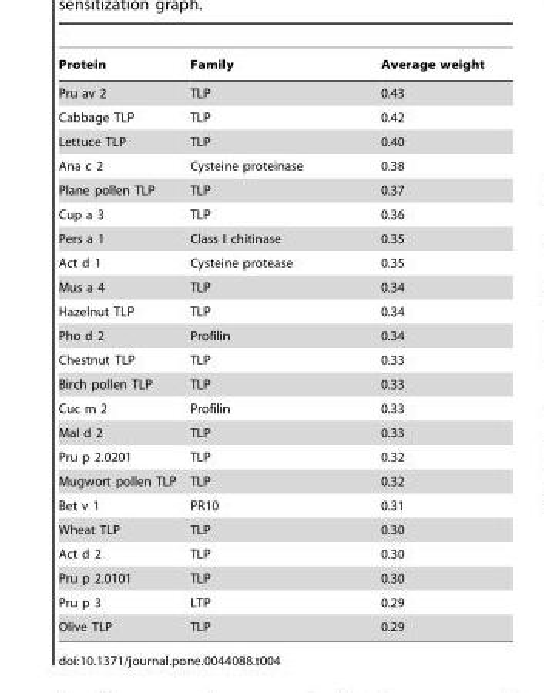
<table><thead><tr><td>Protein</td><td>Family</td><td>Average weight</td></tr></thead><tbody><tr><td>Pru av 2</td><td>TLP</td><td>0.43</td></tr><tr><td>Cabbage TLP</td><td>TLP</td><td>0.42</td></tr><tr><td>Lettuce TLP</td><td>TLP</td><td>0.40</td></tr><tr><td>Ana c 2</td><td>Cysteine proteinase</td><td>0.38</td></tr><tr><td>Plane pollen TLP</td><td>TLP</td><td>0.37</td></tr><tr><td>Cup a 3</td><td>TLP</td><td>0.36</td></tr><tr><td>Pers a 1</td><td>Class I chitinase</td><td>0.35</td></tr><tr><td>Act d 1</td><td>Cysteine protease</td><td>0.35</td></tr><tr><td>Mus a 4</td><td>TLP</td><td>0.34</td></tr><tr><td>Hazelnut TLP</td><td>TLP</td><td>0.34</td></tr><tr><td>Pho d 2</td><td>Profilin</td><td>0.34</td></tr><tr><td>Chestnut TLP</td><td>TLP</td><td>0.33</td></tr><tr><td>Birch pollen TLP</td><td>TLP</td><td>0.33</td></tr><tr><td>Cuc m 2</td><td>Profilin</td><td>0.33</td></tr><tr><td>Mal d 2</td><td>TLP</td><td>0.33</td></tr><tr><td>Pru p 2.0201</td><td>TLP</td><td>0.32</td></tr><tr><td>Mugwort pollen TLP</td><td>TLP</td><td>0.32</td></tr><tr><td>Bet v 1</td><td>PR10</td><td>0.31</td></tr><tr><td>Wheat TLP</td><td>TLP</td><td>0.30</td></tr><tr><td>Act d 2</td><td>TLP</td><td>0.30</td></tr><tr><td>Pru p 2.0101</td><td>TLP</td><td>0.30</td></tr><tr><td>Pru p 3</td><td>LTP</td><td>0.29</td></tr><tr><td>Olive TLP</td><td>TLP</td><td>0.29</td></tr></tbody></table>